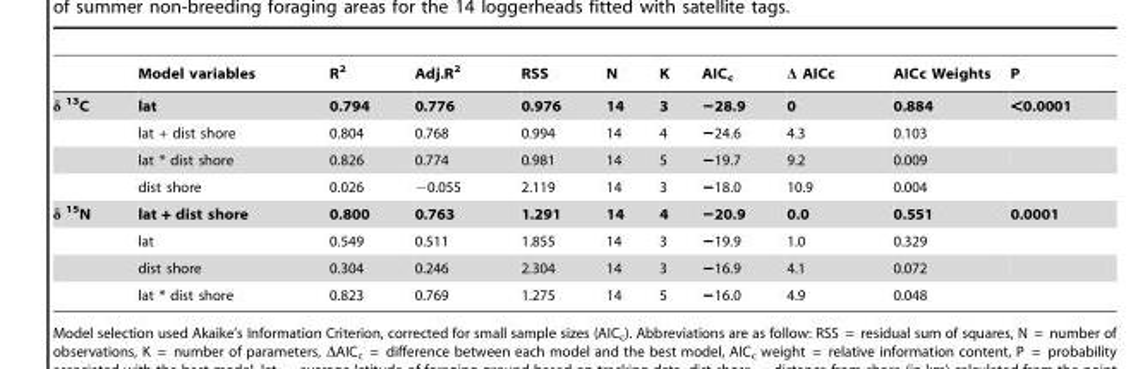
<table><thead><tr><td></td><td>Model variables</td><td>R<sup>2</sup></td><td>Adj.R<sup>2</sup></td><td>RSS</td><td>N</td><td>K</td><td>AIC<sub>c</sub></td><td>Δ AICc</td><td>AICc Weights</td><td>P</td></tr></thead><tbody><tr><td rowspan="4">13C</td><td>lat</td><td>0.794</td><td>0.776</td><td>0.976</td><td>14</td><td>3</td><td>−28.9</td><td>0</td><td>0.884</td><td>&lt;0.0001</td></tr><tr><td>lat + dist shore</td><td>0.804</td><td>0.768</td><td>0.994</td><td>14</td><td>4</td><td>−24.6</td><td>4.3</td><td>0.103</td><td></td></tr><tr><td>lat * dist shore</td><td>0.826</td><td>0.774</td><td>0.981</td><td>14</td><td>5</td><td>−19.7</td><td>9.2</td><td>0.009</td><td></td></tr><tr><td>dist shore</td><td>0.026</td><td>−0.055</td><td>2.119</td><td>14</td><td>3</td><td>−18.0</td><td>10.9</td><td>0.004</td><td></td></tr><tr><td rowspan="4">15N</td><td>lat + dist shore</td><td>0.800</td><td>0.763</td><td>1.291</td><td>14</td><td>4</td><td>−20.9</td><td>0.0</td><td>0.551</td><td>0.0001</td></tr><tr><td>lat</td><td>0.549</td><td>0.511</td><td>1.855</td><td>14</td><td>3</td><td>−19.9</td><td>1.0</td><td>0.329</td><td></td></tr><tr><td>dist shore</td><td>0.304</td><td>0.246</td><td>2.304</td><td>14</td><td>3</td><td>−16.9</td><td>4.1</td><td>0.072</td><td></td></tr><tr><td>lat * dist shore</td><td>0.823</td><td>0.769</td><td>1.275</td><td>14</td><td>5</td><td>−16.0</td><td>4.9</td><td>0.048</td><td></td></tr></tbody></table>